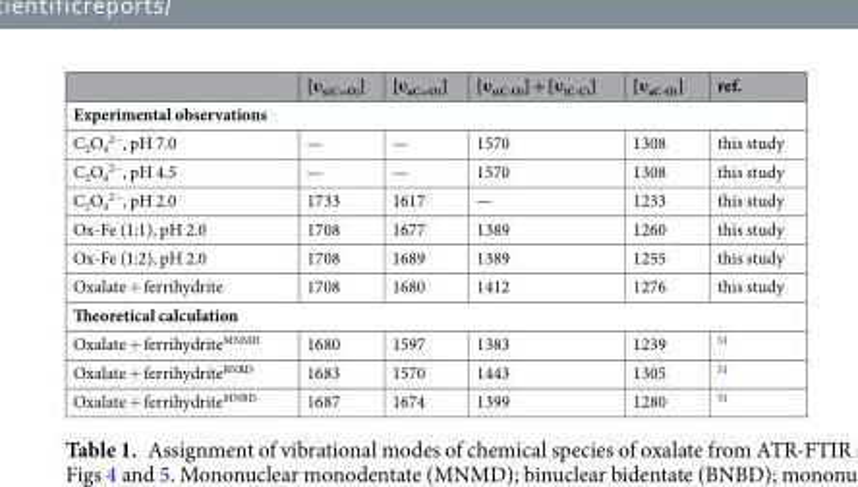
<table><thead><tr><td></td><td>[ʋ<sub>s(C=O)</sub>]</td><td>[ʋ<sub>aC=O)</sub>]</td><td>[ʋ<sub>s(C-O)</sub>] + [ʋ<sub>(C-C)</sub>]</td><td>[ʋ<sub>aC-O)</sub>]</td><td>ref.</td></tr></thead><tbody><tr><td colspan="6">Experimental observations</td></tr><tr><td>C<sub>2</sub>O<sub>4</sub> <sup>2−</sup>, pH 7.0</td><td>—</td><td>—</td><td>1570</td><td>1308</td><td>this study</td></tr><tr><td>C<sub>2</sub>O<sub>4</sub> <sup>2−</sup>, pH 4.5</td><td>—</td><td>—</td><td>1570</td><td>1308</td><td>this study</td></tr><tr><td>C<sub>2</sub>O<sub>4</sub> <sup>2−</sup>, pH 2.0</td><td>1733</td><td>1617</td><td>—</td><td>1233</td><td>this study</td></tr><tr><td>Ox-Fe (1:1), pH 2.0</td><td>1708</td><td>1677</td><td>1389</td><td>1260</td><td>this study</td></tr><tr><td>Ox-Fe (1:2), pH 2.0</td><td>1708</td><td>1689</td><td>1389</td><td>1255</td><td>this study</td></tr><tr><td>Oxalate + ferrihydrite</td><td>1708</td><td>1680</td><td>1412</td><td>1276</td><td>this study</td></tr><tr><td colspan="6">Theoretical calculation</td></tr><tr><td>Oxalate + ferrihydrite<sup>MNMD</sup></td><td>1680</td><td>1597</td><td>1383</td><td>1239</td><td><sup>51</sup></td></tr><tr><td>Oxalate + ferrihydrite<sup>BNBD</sup></td><td>1683</td><td>1570</td><td>1443</td><td>1305</td><td><sup>51</sup></td></tr><tr><td>Oxalate + ferrihydrite<sup>MNBD</sup></td><td>1687</td><td>1674</td><td>1399</td><td>1280</td><td><sup>51</sup></td></tr></tbody></table>